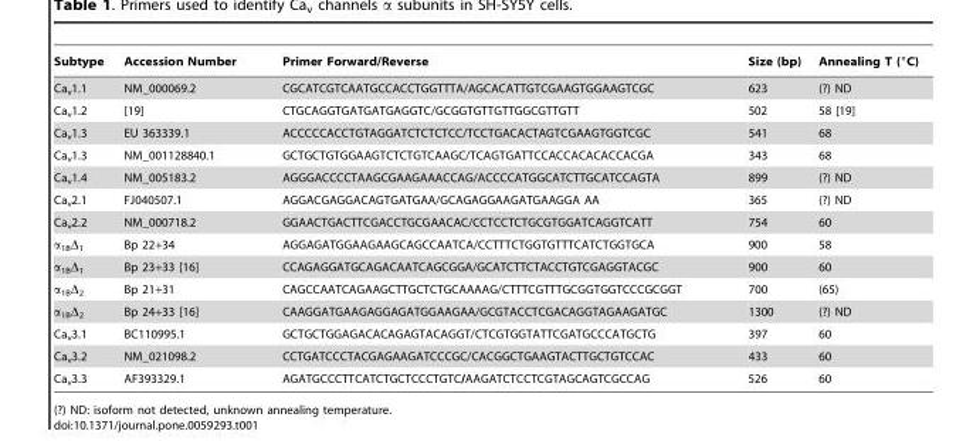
<table><thead><tr><td>Subtype</td><td>Accession Number</td><td>Primer Forward/Reverse</td><td>Size (bp)</td><td>Annealing T (°C)</td></tr></thead><tbody><tr><td>Ca<sub>v</sub>1.1</td><td>NM_000069.2</td><td>CGCATCGTCAATGCCACCTGGTTTA/AGCACATTGTCGAAGTGGAAGTCGC</td><td>623</td><td>(?) ND</td></tr><tr><td>Ca<sub>v</sub>1.2</td><td>[19]</td><td>CTGCAGGTGATGATGAGGTC/GCGGTGTTGTTGGCGTTGTT</td><td>502</td><td>58 [19]</td></tr><tr><td>Ca<sub>v</sub>1.3</td><td>EU 363339.1</td><td>ACCCCCACCTGTAGGATCTCTCTCC/TCCTGACACTAGTCGAAGTGGTCGC</td><td>541</td><td>68</td></tr><tr><td>Ca<sub>v</sub>1.3</td><td>NM_001128840.1</td><td>GCTGCTGTGGAAGTCTCTGTCAAGC/TCAGTGATTCCACCACACACCACGA</td><td>343</td><td>68</td></tr><tr><td>Ca<sub>v</sub>1.4</td><td>NM_005183.2</td><td>AGGGACCCCTAAGCGAAGAAACCAG/ACCCCATGGCATCTTGCATCCAGTA</td><td>899</td><td>(?) ND</td></tr><tr><td>Ca<sub>v</sub>2.1</td><td>FJ040507.1</td><td>AGGACGAGGACAGTGATGAA/GCAGAGGAAGATGAAGGA AA</td><td>365</td><td>(?) ND</td></tr><tr><td>Ca<sub>v</sub>2.2</td><td>NM_000718.2</td><td>GGAACTGACTTCGACCTGCGAACAC/CCTCCTCTGCGTGGATCAGGTCATT</td><td>754</td><td>60</td></tr><tr><td>α<sub>1B</sub>Δ<sub>1</sub></td><td>Bp 22+34</td><td>AGGAGATGGAAGAAGCAGCCAATCA/CCTTTCTGGTGTTTCATCTGGTGCA</td><td>900</td><td>58</td></tr><tr><td>α<sub>1B</sub>Δ<sub>1</sub></td><td>Bp 23+33 [16]</td><td>CCAGAGGATGCAGACAATCAGCGGA/GCATCTTCTACCTGTCGAGGTACGC</td><td>900</td><td>60</td></tr><tr><td>α<sub>1B</sub>Δ<sub>2</sub></td><td>Bp 21+31</td><td>CAGCCAATCAGAAGCTTGCTCTGCAAAAG/CTTTCGTTTGCGGTGGTCCCGCGGT</td><td>700</td><td>(65)</td></tr><tr><td>α<sub>1B</sub>Δ<sub>2</sub></td><td>Bp 24+33 [16]</td><td>CAAGGATGAAGAGGAGATGGAAGAA/GCGTACCTCGACAGGTAGAAGATGC</td><td>1300</td><td>(?) ND</td></tr><tr><td>Ca<sub>v</sub>3.1</td><td>BC110995.1</td><td>GCTGCTGGAGACACAGAGTACAGGT/CTCGTGGTATTCGATGCCCATGCTG</td><td>397</td><td>60</td></tr><tr><td>Ca<sub>v</sub>3.2</td><td>NM_021098.2</td><td>CCTGATCCCTACGAGAAGATCCCGC/CACGGCTGAAGTACTTGCTGTCCAC</td><td>433</td><td>60</td></tr><tr><td>Ca<sub>v</sub>3.3</td><td>AF393329.1</td><td>AGATGCCCTTCATCTGCTCCCTGTC/AAGATCTCCTCGTAGCAGTCGCCAG</td><td>526</td><td>60</td></tr></tbody></table>